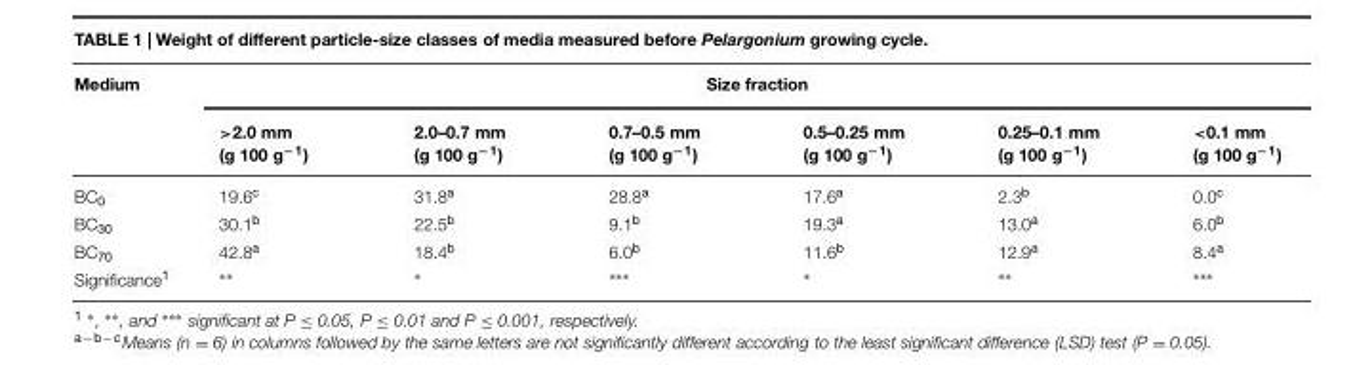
<table><thead><tr><td rowspan="2">Medium</td><td colspan="6">Size fraction</td></tr><tr><td>&gt;2.0 mm (g 100 g<sup>−1</sup>)</td><td>2.0–0.7 mm (g 100 g<sup>−1</sup>)</td><td>0.7–0.5 mm (g 100 g<sup>−1</sup>)</td><td>0.5–0.25 mm (g 100 g<sup>−1</sup>)</td><td>0.25–0.1 mm (g 100 g<sup>−1</sup>)</td><td>&lt;0.1 mm (g 100 g<sup>−1</sup>)</td></tr></thead><tbody><tr><td>BC<sub>0</sub></td><td>19.6<sup>c</sup></td><td>31.8<sup>a</sup></td><td>28.8<sup>a</sup></td><td>17.6<sup>a</sup></td><td>2.3<sup>b</sup></td><td>0.0<sup>c</sup></td></tr><tr><td>BC<sub>30</sub></td><td>30.1<sup>b</sup></td><td>22.5<sup>b</sup></td><td>9.1<sup>b</sup></td><td>19.3<sup>a</sup></td><td>13.0<sup>a</sup></td><td>6.0<sup>b</sup></td></tr><tr><td>BC<sub>70</sub></td><td>42.8<sup>a</sup></td><td>18.4<sup>b</sup></td><td>6.0<sup>b</sup></td><td>11.6<sup>b</sup></td><td>12.9<sup>a</sup></td><td>8.4<sup>a</sup></td></tr><tr><td>Significance<sup>1</sup></td><td>∗∗</td><td>∗</td><td>∗∗∗</td><td>∗</td><td>∗∗</td><td>∗∗∗</td></tr></tbody></table>